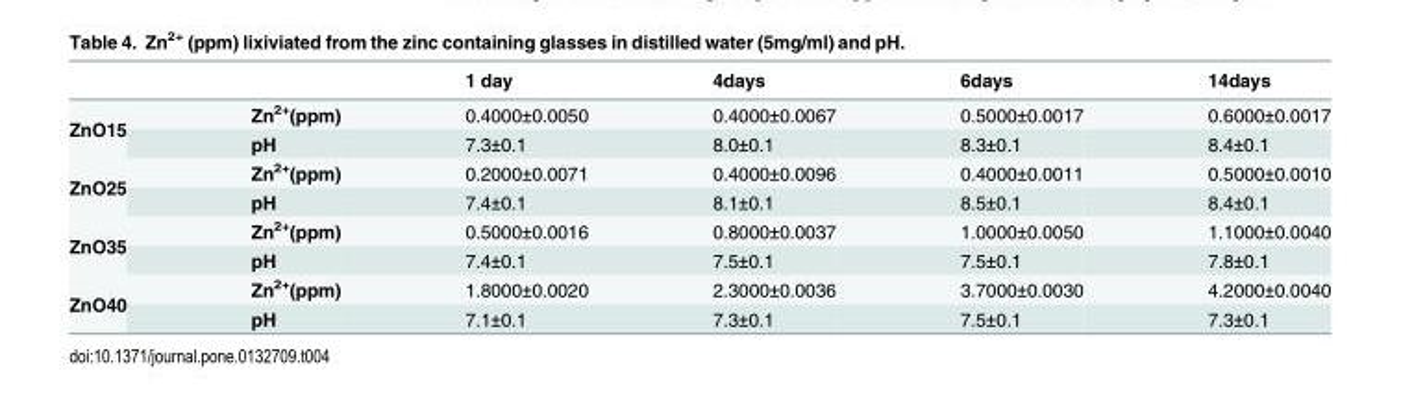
<table><thead><tr><td></td><td></td><td>1 day</td><td>4days</td><td>6days</td><td>14days</td></tr></thead><tbody><tr><td rowspan="2">ZnO15</td><td>Zn<sup>2+</sup>(ppm)</td><td>0.4000±0.0050</td><td>0.4000±0.0067</td><td>0.5000±0.0017</td><td>0.6000±0.0017</td></tr><tr><td>pH</td><td>7.3±0.1</td><td>8.0±0.1</td><td>8.3±0.1</td><td>8.4±0.1</td></tr><tr><td rowspan="2">ZnO25</td><td>Zn<sup>2+</sup>(ppm)</td><td>0.2000±0.0071</td><td>0.4000±0.0096</td><td>0.4000±0.0011</td><td>0.5000±0.0010</td></tr><tr><td>pH</td><td>7.4±0.1</td><td>8.1±0.1</td><td>8.5±0.1</td><td>8.4±0.1</td></tr><tr><td rowspan="2">ZnO35</td><td>Zn<sup>2+</sup>(ppm)</td><td>0.5000±0.0016</td><td>0.8000±0.0037</td><td>1.0000±0.0050</td><td>1.1000±0.0040</td></tr><tr><td>pH</td><td>7.4±0.1</td><td>7.5±0.1</td><td>7.5±0.1</td><td>7.8±0.1</td></tr><tr><td rowspan="2">ZnO40</td><td>Zn<sup>2+</sup>(ppm)</td><td>1.8000±0.0020</td><td>2.3000±0.0036</td><td>3.7000±0.0030</td><td>4.2000±0.0040</td></tr><tr><td>pH</td><td>7.1±0.1</td><td>7.3±0.1</td><td>7.5±0.1</td><td>7.3±0.1</td></tr></tbody></table>